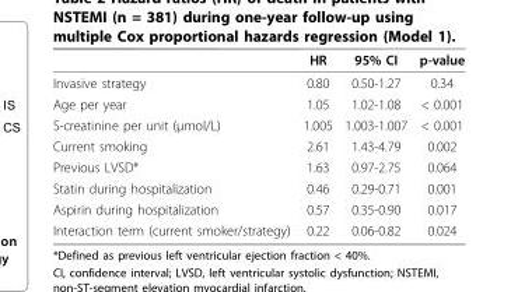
<table><thead><tr><td></td><td>HR</td><td>95% CI</td><td>p-value</td></tr></thead><tbody><tr><td>Invasive strategy</td><td>0.80</td><td>0.50-1.27</td><td>0.34</td></tr><tr><td>Age per year</td><td>1.05</td><td>1.02-1.08</td><td>&lt; 0.001</td></tr><tr><td>S-creatinine per unit (μmol/L)</td><td>1.005</td><td>1.003-1.007</td><td>&lt; 0.001</td></tr><tr><td>Current smoking</td><td>2.61</td><td>1.43-4.79</td><td>0.002</td></tr><tr><td>Previous LVSD*</td><td>1.63</td><td>0.97-2.75</td><td>0.064</td></tr><tr><td>Statin during hospitalization</td><td>0.46</td><td>0.29-0.71</td><td>0.001</td></tr><tr><td>Aspirin during hospitalization</td><td>0.57</td><td>0.35-0.90</td><td>0.017</td></tr><tr><td>Interaction term (current smoker/strategy)</td><td>0.22</td><td>0.06-0.82</td><td>0.024</td></tr></tbody></table>